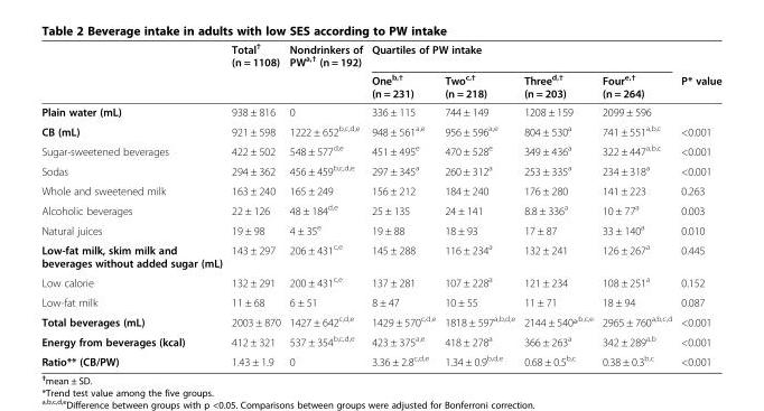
<table><thead><tr><td rowspan="2"></td><td rowspan="2">Total<sup>†</sup> (n = 1108)</td><td rowspan="2">Nondrinkers of PW<sup>a,†</sup> (n = 192)</td><td colspan="4">Quartiles of PW intake</td><td rowspan="2">P* value</td></tr><tr><td>One<sup>b,†</sup> (n = 231)</td><td>Two<sup>c,†</sup> (n = 218)</td><td>Three<sup>d,†</sup> (n = 203)</td><td>Four<sup>e,†</sup> (n = 264)</td></tr></thead><tbody><tr><td>Plain water (mL)</td><td>938 ± 816</td><td>0</td><td>336 ± 115</td><td>744 ± 149</td><td>1208 ± 159</td><td>2099 ± 596</td><td></td></tr><tr><td>CB (mL)</td><td>921 ± 598</td><td>1222 ± 652<sup>b,c,d,e</sup></td><td>948 ± 561<sup>a,e</sup></td><td>956 ± 596<sup>a,e</sup></td><td>804 ± 530<sup>a</sup></td><td>741 ± 551<sup>a,b,c</sup></td><td>&lt;0.001</td></tr><tr><td>Sugar-sweetened beverages</td><td>422 ± 502</td><td>548 ± 577<sup>d,e</sup></td><td>451 ± 495<sup>e</sup></td><td>470 ± 528<sup>e</sup></td><td>349 ± 436<sup>a</sup></td><td>322 ± 447<sup>a,b,c</sup></td><td>&lt;0.001</td></tr><tr><td>Sodas</td><td>294 ± 362</td><td>456 ± 459<sup>b,c,d,e</sup></td><td>297 ± 345<sup>a</sup></td><td>260 ± 312<sup>a</sup></td><td>253 ± 335<sup>a</sup></td><td>234 ± 318<sup>a</sup></td><td>&lt;0.001</td></tr><tr><td>Whole and sweetened milk</td><td>163 ± 240</td><td>165 ± 249</td><td>156 ± 212</td><td>184 ± 240</td><td>176 ± 280</td><td>141 ± 223</td><td>0.263</td></tr><tr><td>Alcoholic beverages</td><td>22 ± 126</td><td>48 ± 184<sup>d,e</sup></td><td>25 ± 135</td><td>24 ± 141</td><td>8.8 ± 336<sup>a</sup></td><td>10 ± 77<sup>a</sup></td><td>0.003</td></tr><tr><td>Natural juices</td><td>19 ± 98</td><td>4 ± 35<sup>e</sup></td><td>19 ± 88</td><td>18 ± 93</td><td>17 ± 87</td><td>33 ± 140<sup>a</sup></td><td>0.010</td></tr><tr><td>Low-fat milk, skim milk and beverages without added sugar (mL)</td><td>143 ± 297</td><td>206 ± 431<sup>c,e</sup></td><td>145 ± 288</td><td>116 ± 234<sup>a</sup></td><td>132 ± 241</td><td>126 ± 267<sup>a</sup></td><td>0.445</td></tr><tr><td>Low calorie</td><td>132 ± 291</td><td>200 ± 431<sup>c,e</sup></td><td>137 ± 281</td><td>107 ± 228<sup>a</sup></td><td>121 ± 234</td><td>108 ± 251<sup>a</sup></td><td>0.152</td></tr><tr><td>Low-fat milk</td><td>11 ± 68</td><td>6 ± 51</td><td>8 ± 47</td><td>10 ± 55</td><td>11 ± 71</td><td>18 ± 94</td><td>0.087</td></tr><tr><td>Total beverages (mL)</td><td>2003 ± 870</td><td>1427 ± 642<sup>c,d,e</sup></td><td>1429 ± 570<sup>c,d,e</sup></td><td>1818 ± 597<sup>a,b,d,e</sup></td><td>2144 ± 540ª<sup>,b,c,e</sup></td><td>2965 ± 760<sup>a,b,c,d</sup></td><td>&lt;0.001</td></tr><tr><td>Energy from beverages (kcal)</td><td>412 ± 321</td><td>537 ± 354<sup>b,c,d,e</sup></td><td>423 ± 375<sup>a,e</sup></td><td>418 ± 278<sup>a</sup></td><td>366 ± 263<sup>a</sup></td><td>342 ± 289<sup>a,b</sup></td><td>&lt;0.001</td></tr><tr><td>Ratio** (CB/PW)</td><td>1.43 ± 1.9</td><td>0</td><td>3.36 ± 2.8<sup>c,d,e</sup></td><td>1.34 ± 0.9<sup>b,d,e</sup></td><td>0.68 ± 0.5<sup>b,c</sup></td><td>0.38 ± 0.3<sup>b,c</sup></td><td>&lt;0.001</td></tr></tbody></table>